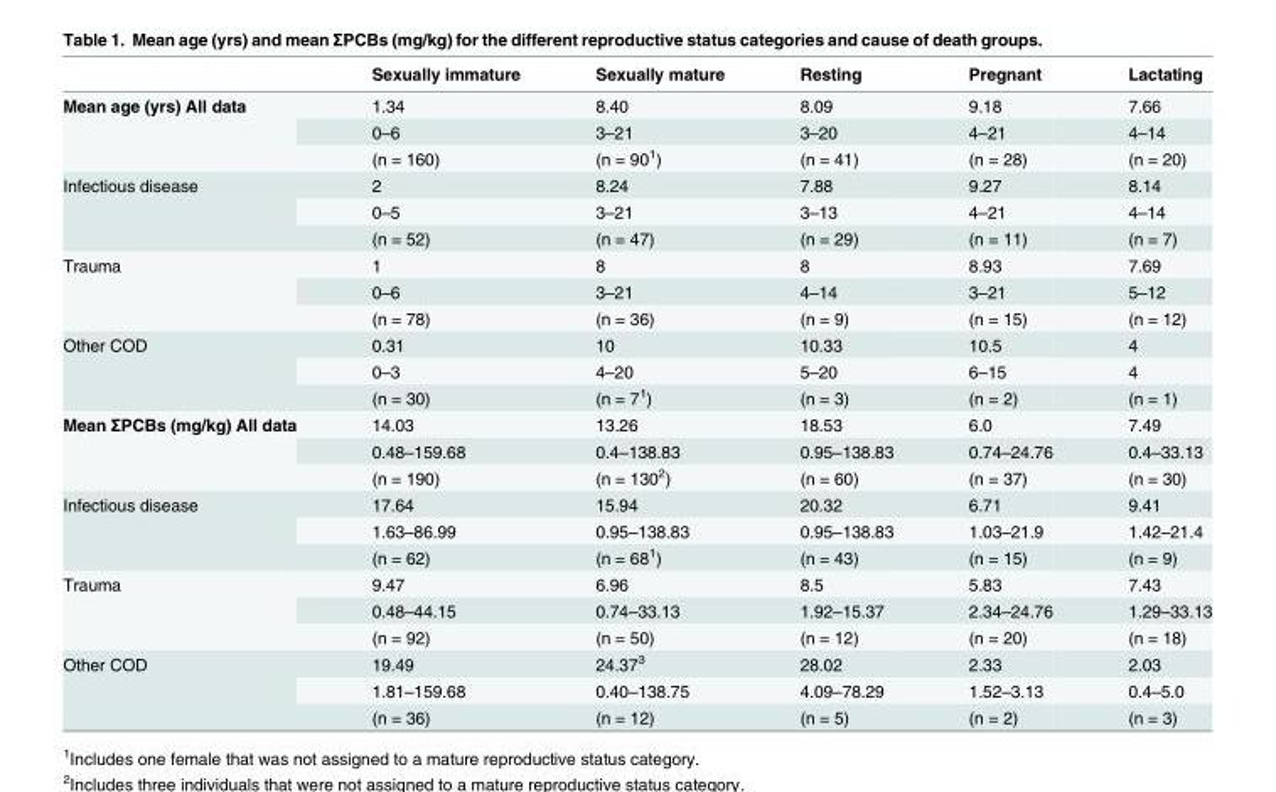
<table><thead><tr><td></td><td>Sexually immature</td><td>Sexually mature</td><td>Resting</td><td>Pregnant</td><td>Lactating</td></tr></thead><tbody><tr><td rowspan="3">Mean age (yrs) All data</td><td>1.34</td><td>8.40</td><td>8.09</td><td>9.18</td><td>7.66</td></tr><tr><td>0–6</td><td>3–21</td><td>3–20</td><td>4–21</td><td>4–14</td></tr><tr><td>(n = 160)</td><td>(n = 90<sup>1</sup>)</td><td>(n = 41)</td><td>(n = 28)</td><td>(n = 20)</td></tr><tr><td rowspan="3">Infectious disease</td><td>2</td><td>8.24</td><td>7.88</td><td>9.27</td><td>8.14</td></tr><tr><td>0–5</td><td>3–21</td><td>3–13</td><td>4–21</td><td>4–14</td></tr><tr><td>(n = 52)</td><td>(n = 47)</td><td>(n = 29)</td><td>(n = 11)</td><td>(n = 7)</td></tr><tr><td rowspan="3">Trauma</td><td>1</td><td>8</td><td>8</td><td>8.93</td><td>7.69</td></tr><tr><td>0–6</td><td>3–21</td><td>4–14</td><td>3–21</td><td>5–12</td></tr><tr><td>(n = 78)</td><td>(n = 36)</td><td>(n = 9)</td><td>(n = 15)</td><td>(n = 12)</td></tr><tr><td rowspan="3">Other COD</td><td>0.31</td><td>10</td><td>10.33</td><td>10.5</td><td>4</td></tr><tr><td>0–3</td><td>4–20</td><td>5–20</td><td>6–15</td><td>4</td></tr><tr><td>(n = 30)</td><td>(n = 7<sup>1</sup>)</td><td>(n = 3)</td><td>(n = 2)</td><td>(n = 1)</td></tr><tr><td rowspan="3">Mean ΣPCBs (mg/kg) All data</td><td>14.03</td><td>13.26</td><td>18.53</td><td>6.0</td><td>7.49</td></tr><tr><td>0.48–159.68</td><td>0.4–138.83</td><td>0.95–138.83</td><td>0.74–24.76</td><td>0.4–33.13</td></tr><tr><td>(n = 190)</td><td>(n = 130<sup>2</sup>)</td><td>(n = 60)</td><td>(n = 37)</td><td>(n = 30)</td></tr><tr><td rowspan="3">Infectious disease</td><td>17.64</td><td>15.94</td><td>20.32</td><td>6.71</td><td>9.41</td></tr><tr><td>1.63–86.99</td><td>0.95–138.83</td><td>0.95–138.83</td><td>1.03–21.9</td><td>1.42–21.4</td></tr><tr><td>(n = 62)</td><td>(n = 68<sup>1</sup>)</td><td>(n = 43)</td><td>(n = 15)</td><td>(n = 9)</td></tr><tr><td rowspan="3">Trauma</td><td>9.47</td><td>6.96</td><td>8.5</td><td>5.83</td><td>7.43</td></tr><tr><td>0.48–44.15</td><td>0.74–33.13</td><td>1.92–15.37</td><td>2.34–24.76</td><td>1.29–33.13</td></tr><tr><td>(n = 92)</td><td>(n = 50)</td><td>(n = 12)</td><td>(n = 20)</td><td>(n = 18)</td></tr><tr><td rowspan="3">Other COD</td><td>19.49</td><td>24.37<sup>3</sup></td><td>28.02</td><td>2.33</td><td>2.03</td></tr><tr><td>1.81–159.68</td><td>0.40–138.75</td><td>4.09–78.29</td><td>1.52–3.13</td><td>0.4–5.0</td></tr><tr><td>(n = 36)</td><td>(n = 12)</td><td>(n = 5)</td><td>(n = 2)</td><td>(n = 3)</td></tr></tbody></table>